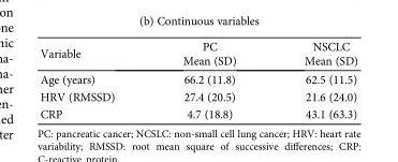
<table><thead><tr><td>Variable</td><td>PC Mean (SD)</td><td>NSCLC Mean (SD)</td></tr></thead><tbody><tr><td>Age (years)</td><td>66.2 (11.8)</td><td>62.5 (11.5)</td></tr><tr><td>HRV (RMSSD)</td><td>27.4 (20.5)</td><td>21.6 (24.0)</td></tr><tr><td>CRP</td><td>4.7 (18.8)</td><td>43.1 (63.3)</td></tr></tbody></table>